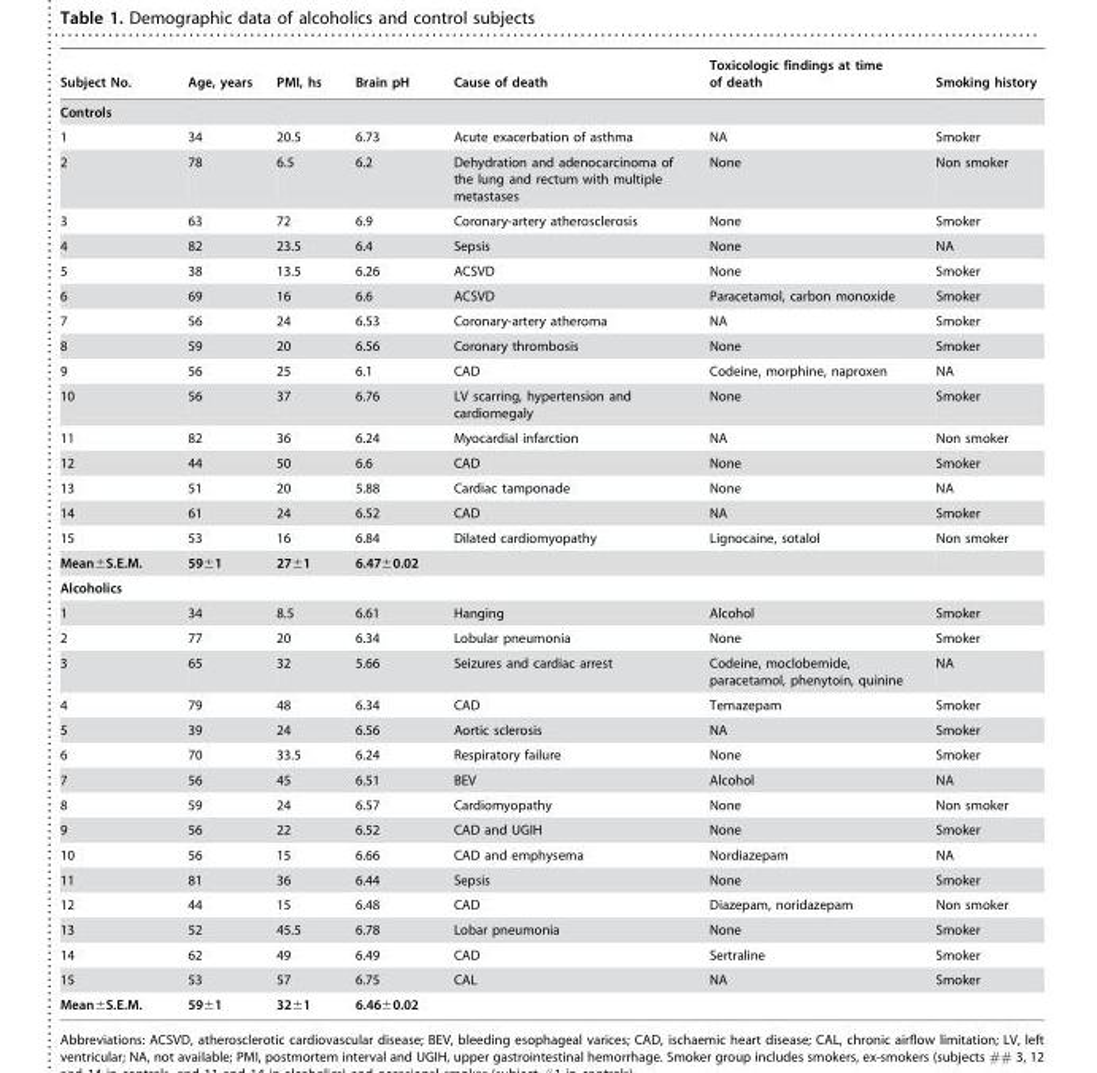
<table><thead><tr><td>Subject No.</td><td>Age, years</td><td>PMI, hs</td><td>Brain pH</td><td>Cause of death</td><td>Toxicologic findings at time of death</td><td>Smoking history</td></tr></thead><tbody><tr><td colspan="7">Controls</td></tr><tr><td>1</td><td>34</td><td>20.5</td><td>6.73</td><td>Acute exacerbation of asthma</td><td>NA</td><td>Smoker</td></tr><tr><td>2</td><td>78</td><td>6.5</td><td>6.2</td><td>Dehydration and adenocarcinoma of the lung and rectum with multiple metastases</td><td>None</td><td>Non smoker</td></tr><tr><td>3</td><td>63</td><td>72</td><td>6.9</td><td>Coronary-artery atherosclerosis</td><td>None</td><td>Smoker</td></tr><tr><td>4</td><td>82</td><td>23.5</td><td>6.4</td><td>Sepsis</td><td>None</td><td>NA</td></tr><tr><td>5</td><td>38</td><td>13.5</td><td>6.26</td><td>ACSVD</td><td>None</td><td>Smoker</td></tr><tr><td>6</td><td>69</td><td>16</td><td>6.6</td><td>ACSVD</td><td>Paracetamol, carbon monoxide</td><td>Smoker</td></tr><tr><td>7</td><td>56</td><td>24</td><td>6.53</td><td>Coronary-artery atheroma</td><td>NA</td><td>Smoker</td></tr><tr><td>8</td><td>59</td><td>20</td><td>6.56</td><td>Coronary thrombosis</td><td>None</td><td>Smoker</td></tr><tr><td>9</td><td>56</td><td>25</td><td>6.1</td><td>CAD</td><td>Codeine, morphine, naproxen</td><td>NA</td></tr><tr><td>10</td><td>56</td><td>37</td><td>6.76</td><td>LV scarring, hypertension and cardiomegaly</td><td>None</td><td>Smoker</td></tr><tr><td>11</td><td>82</td><td>36</td><td>6.24</td><td>Myocardial infarction</td><td>NA</td><td>Non smoker</td></tr><tr><td>12</td><td>44</td><td>50</td><td>6.6</td><td>CAD</td><td>None</td><td>Smoker</td></tr><tr><td>13</td><td>51</td><td>20</td><td>5.88</td><td>Cardiac tamponade</td><td>None</td><td>NA</td></tr><tr><td>14</td><td>61</td><td>24</td><td>6.52</td><td>CAD</td><td>NA</td><td>Smoker</td></tr><tr><td>15</td><td>53</td><td>16</td><td>6.84</td><td>Dilated cardiomyopathy</td><td>Lignocaine, sotalol</td><td>Non smoker</td></tr><tr><td>Mean±S.E.M.</td><td>59±1</td><td>27±1</td><td>6.47±0.02</td><td></td><td></td><td></td></tr><tr><td colspan="7">Alcoholics</td></tr><tr><td>1</td><td>34</td><td>8.5</td><td>6.61</td><td>Hanging</td><td>Alcohol</td><td>Smoker</td></tr><tr><td>2</td><td>77</td><td>20</td><td>6.34</td><td>Lobular pneumonia</td><td>None</td><td>Smoker</td></tr><tr><td>3</td><td>65</td><td>32</td><td>5.66</td><td>Seizures and cardiac arrest</td><td>Codeine, moclobemide, paracetamol, phenytoin, quinine</td><td>NA</td></tr><tr><td>4</td><td>79</td><td>48</td><td>6.34</td><td>CAD</td><td>Temazepam</td><td>Smoker</td></tr><tr><td>5</td><td>39</td><td>24</td><td>6.56</td><td>Aortic sclerosis</td><td>NA</td><td>Smoker</td></tr><tr><td>6</td><td>70</td><td>33.5</td><td>6.24</td><td>Respiratory failure</td><td>None</td><td>Smoker</td></tr><tr><td>7</td><td>56</td><td>45</td><td>6.51</td><td>BEV</td><td>Alcohol</td><td>NA</td></tr><tr><td>8</td><td>59</td><td>24</td><td>6.57</td><td>Cardiomyopathy</td><td>None</td><td>Non smoker</td></tr><tr><td>9</td><td>56</td><td>22</td><td>6.52</td><td>CAD and UGIH</td><td>None</td><td>Smoker</td></tr><tr><td>10</td><td>56</td><td>15</td><td>6.66</td><td>CAD and emphysema</td><td>Nordiazepam</td><td>NA</td></tr><tr><td>11</td><td>81</td><td>36</td><td>6.44</td><td>Sepsis</td><td>None</td><td>Smoker</td></tr><tr><td>12</td><td>44</td><td>15</td><td>6.48</td><td>CAD</td><td>Diazepam, noridazepam</td><td>Non smoker</td></tr><tr><td>13</td><td>52</td><td>45.5</td><td>6.78</td><td>Lobar pneumonia</td><td>None</td><td>Smoker</td></tr><tr><td>14</td><td>62</td><td>49</td><td>6.49</td><td>CAD</td><td>Sertraline</td><td>Smoker</td></tr><tr><td>15</td><td>53</td><td>57</td><td>6.75</td><td>CAL</td><td>NA</td><td>Smoker</td></tr><tr><td>Mean±S.E.M.</td><td>59±1</td><td>32±1</td><td>6.46±0.02</td><td></td><td></td><td></td></tr></tbody></table>